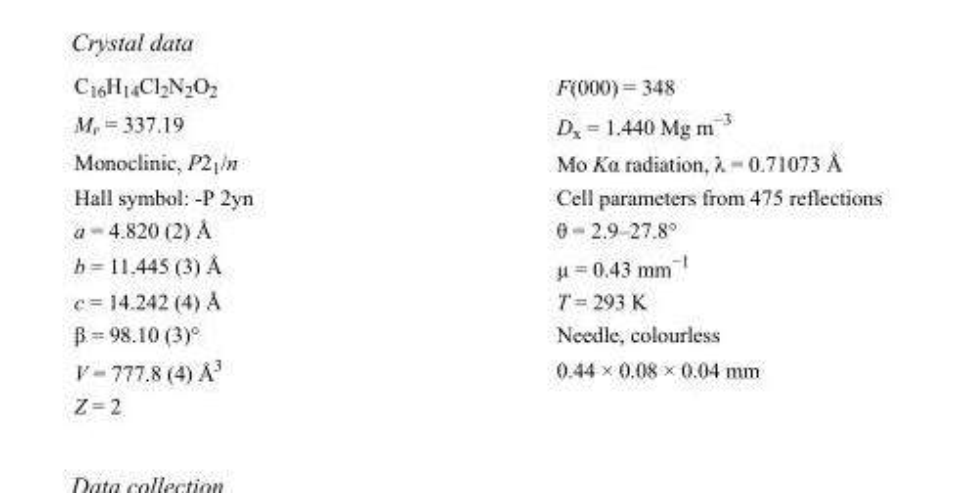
<table><tbody><tr><td>C<sub>16</sub>H<sub>14</sub>Cl<sub>2</sub>N<sub>2</sub>O<sub>2</sub></td><td>F(000) = 348</td></tr><tr><td>M<sub>r</sub> = 337.19</td><td>D<sub>x</sub> = 1.440 Mg m<sup>−3</sup></td></tr><tr><td>Monoclinic, P2<sub>1</sub>/n</td><td>Mo Kα radiation, λ = 0.71073 Å</td></tr><tr><td>Hall symbol: -P 2yn</td><td>Cell parameters from 475 reflections</td></tr><tr><td>a = 4.820 (2) Å</td><td>θ = 2.9–27.8°</td></tr><tr><td>b = 11.445 (3) Å</td><td>µ = 0.43 mm<sup>−1</sup></td></tr><tr><td>c = 14.242 (4) Å</td><td>T = 293 K</td></tr><tr><td>β = 98.10 (3)°</td><td>Needle, colourless</td></tr><tr><td>V = 777.8 (4) Å<sup>3</sup></td><td>0.44 × 0.08 × 0.04 mm</td></tr><tr><td>Z = 2</td><td></td></tr></tbody></table>